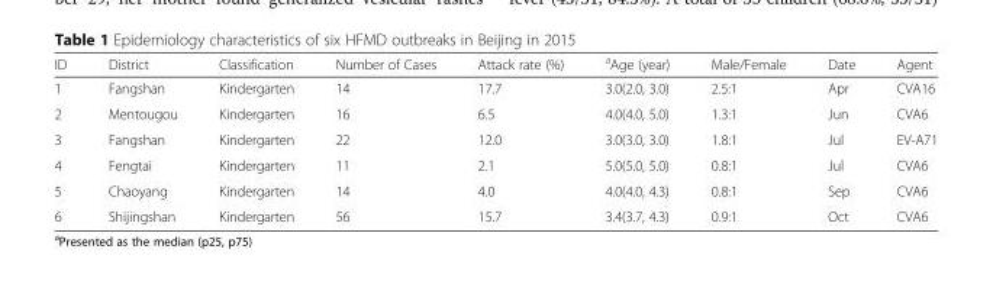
<table><thead><tr><td>ID</td><td>District</td><td>Classification</td><td>Number of Cases</td><td>Attack rate (%)</td><td><sup>a</sup>Age (year)</td><td>Male/Female</td><td>Date</td><td>Agent</td></tr></thead><tbody><tr><td>1</td><td>Fangshan</td><td>Kindergarten</td><td>14</td><td>17.7</td><td>3.0(2.0, 3.0)</td><td>2.5:1</td><td>Apr</td><td>CVA16</td></tr><tr><td>2</td><td>Mentougou</td><td>Kindergarten</td><td>16</td><td>6.5</td><td>4.0(4.0, 5.0)</td><td>1.3:1</td><td>Jun</td><td>CVA6</td></tr><tr><td>3</td><td>Fangshan</td><td>Kindergarten</td><td>22</td><td>12.0</td><td>3.0(3.0, 3.0)</td><td>1.8:1</td><td>Jul</td><td>EV-A71</td></tr><tr><td>4</td><td>Fengtai</td><td>Kindergarten</td><td>11</td><td>2.1</td><td>5.0(5.0, 5.0)</td><td>0.8:1</td><td>Jul</td><td>CVA6</td></tr><tr><td>5</td><td>Chaoyang</td><td>Kindergarten</td><td>14</td><td>4.0</td><td>4.0(4.0, 4.3)</td><td>0.8:1</td><td>Sep</td><td>CVA6</td></tr><tr><td>6</td><td>Shijingshan</td><td>Kindergarten</td><td>56</td><td>15.7</td><td>3.4(3.7, 4.3)</td><td>0.9:1</td><td>Oct</td><td>CVA6</td></tr></tbody></table>